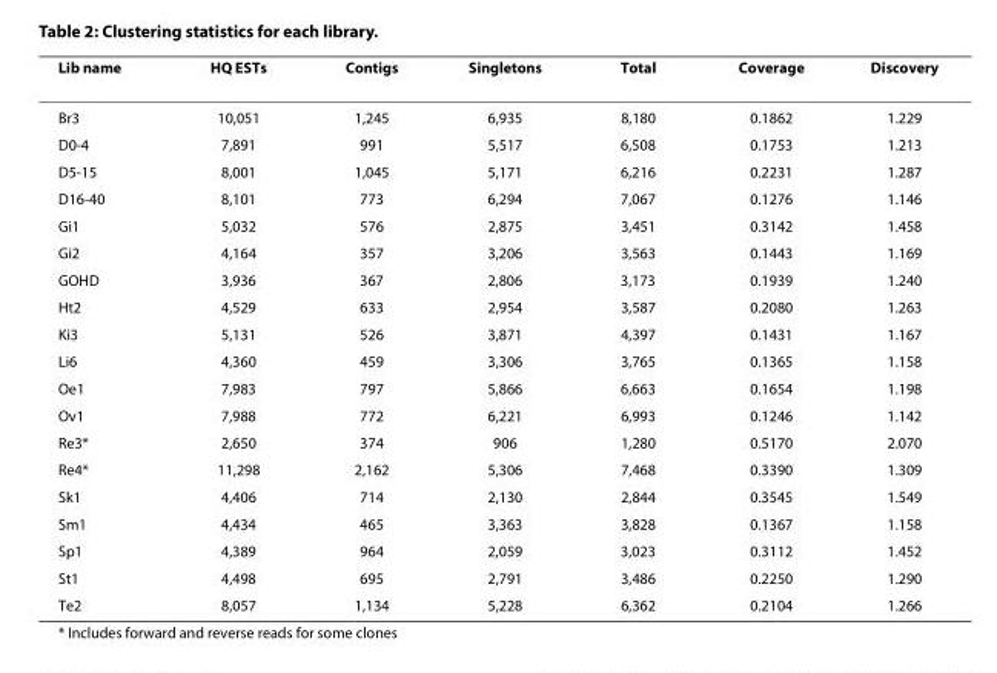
<table><thead><tr><td>Lib name</td><td>HQ ESTs</td><td>Contigs</td><td>Singletons</td><td>Total</td><td>Coverage</td><td>Discovery</td></tr></thead><tbody><tr><td>Br3</td><td>10,051</td><td>1,245</td><td>6,935</td><td>8,180</td><td>0.1862</td><td>1.229</td></tr><tr><td>D0-4</td><td>7,891</td><td>991</td><td>5,517</td><td>6,508</td><td>0.1753</td><td>1.213</td></tr><tr><td>D5-15</td><td>8,001</td><td>1,045</td><td>5,171</td><td>6,216</td><td>0.2231</td><td>1.287</td></tr><tr><td>D16-40</td><td>8,101</td><td>773</td><td>6,294</td><td>7,067</td><td>0.1276</td><td>1.146</td></tr><tr><td>Gi1</td><td>5,032</td><td>576</td><td>2,875</td><td>3,451</td><td>0.3142</td><td>1.458</td></tr><tr><td>Gi2</td><td>4,164</td><td>357</td><td>3,206</td><td>3,563</td><td>0.1443</td><td>1.169</td></tr><tr><td>GOHD</td><td>3,936</td><td>367</td><td>2,806</td><td>3,173</td><td>0.1939</td><td>1.240</td></tr><tr><td>Ht2</td><td>4,529</td><td>633</td><td>2,954</td><td>3,587</td><td>0.2080</td><td>1.263</td></tr><tr><td>Ki3</td><td>5,131</td><td>526</td><td>3,871</td><td>4,397</td><td>0.1431</td><td>1.167</td></tr><tr><td>Li6</td><td>4,360</td><td>459</td><td>3,306</td><td>3,765</td><td>0.1365</td><td>1.158</td></tr><tr><td>Oe1</td><td>7,983</td><td>797</td><td>5,866</td><td>6,663</td><td>0.1654</td><td>1.198</td></tr><tr><td>Ov1</td><td>7,988</td><td>772</td><td>6,221</td><td>6,993</td><td>0.1246</td><td>1.142</td></tr><tr><td>Re3*</td><td>2,650</td><td>374</td><td>906</td><td>1,280</td><td>0.5170</td><td>2.070</td></tr><tr><td>Re4*</td><td>11,298</td><td>2,162</td><td>5,306</td><td>7,468</td><td>0.3390</td><td>1.309</td></tr><tr><td>Sk1</td><td>4,406</td><td>714</td><td>2,130</td><td>2,844</td><td>0.3545</td><td>1.549</td></tr><tr><td>Sm1</td><td>4,434</td><td>465</td><td>3,363</td><td>3,828</td><td>0.1367</td><td>1.158</td></tr><tr><td>Sp1</td><td>4,389</td><td>964</td><td>2,059</td><td>3,023</td><td>0.3112</td><td>1.452</td></tr><tr><td>St1</td><td>4,498</td><td>695</td><td>2,791</td><td>3,486</td><td>0.2250</td><td>1.290</td></tr><tr><td>Te2</td><td>8,057</td><td>1,134</td><td>5,228</td><td>6,362</td><td>0.2104</td><td>1.266</td></tr></tbody></table>